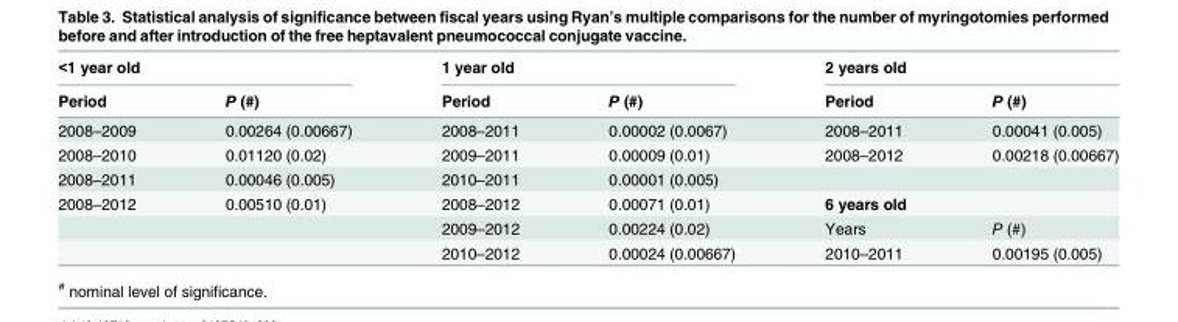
<table><thead><tr><td colspan="2">&lt;1 year old</td><td colspan="2">1 year old</td><td colspan="2">2 years old</td></tr><tr><td>Period</td><td>P (#)</td><td>Period</td><td>P (#)</td><td>Period</td><td>P (#)</td></tr></thead><tbody><tr><td>2008–2009</td><td>0.00264 (0.00667)</td><td>2008–2011</td><td>0.00002 (0.0067)</td><td>2008–2011</td><td>0.00041 (0.005)</td></tr><tr><td>2008–2010</td><td>0.01120 (0.02)</td><td>2009–2011</td><td>0.00009 (0.01)</td><td>2008–2012</td><td>0.00218 (0.00667)</td></tr><tr><td>2008–2011</td><td>0.00046 (0.005)</td><td>2010–2011</td><td>0.00001 (0.005)</td><td></td><td></td></tr><tr><td rowspan="3">2008–2012</td><td>0.00510 (0.01)</td><td>2008–2012</td><td>0.00071 (0.01)</td><td colspan="2">6 years old</td></tr><tr><td></td><td>2009–2012</td><td>0.00224 (0.02)</td><td>Years</td><td>P (#)</td></tr><tr><td></td><td>2010–2012</td><td>0.00024 (0.00667)</td><td>2010–2011</td><td>0.00195 (0.005)</td></tr></tbody></table>